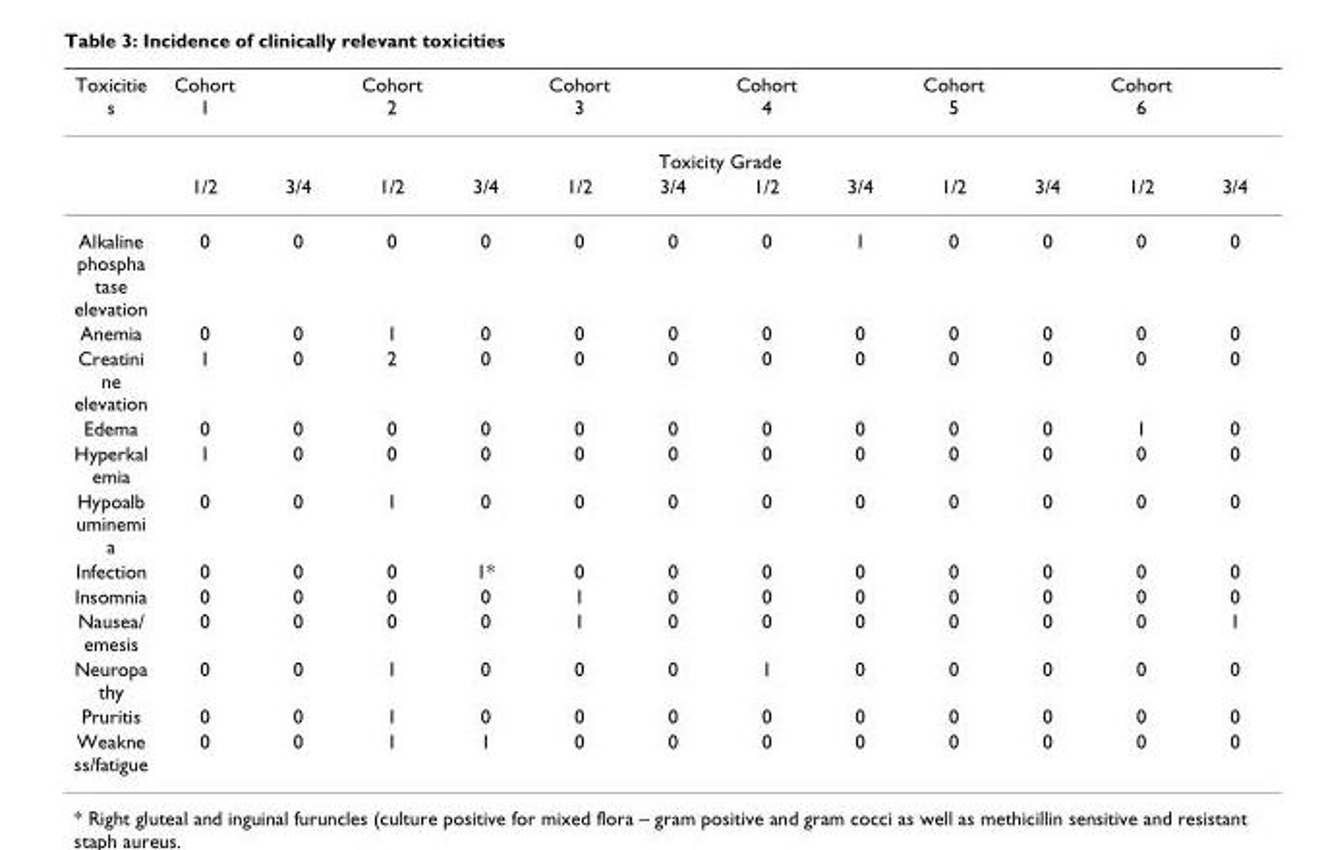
<table><thead><tr><td>Toxicitie s</td><td>Cohort 1</td><td></td><td>Cohort 2</td><td></td><td>Cohort 3</td><td></td><td>Cohort 4</td><td></td><td>Cohort 5</td><td></td><td>Cohort 6</td><td></td></tr></thead><tbody><tr><td></td><td colspan="12">Toxicity Grade</td></tr><tr><td></td><td>1/2</td><td>3/4</td><td>1/2</td><td>3/4</td><td>1/2</td><td>3/4</td><td>1/2</td><td>3/4</td><td>1/2</td><td>3/4</td><td>1/2</td><td>3/4</td></tr><tr><td>Alkaline phospha tase elevation</td><td>0</td><td>0</td><td>0</td><td>0</td><td>0</td><td>0</td><td>0</td><td>1</td><td>0</td><td>0</td><td>0</td><td>0</td></tr><tr><td>Anemia</td><td>0</td><td>0</td><td>1</td><td>0</td><td>0</td><td>0</td><td>0</td><td>0</td><td>0</td><td>0</td><td>0</td><td>0</td></tr><tr><td>Creatini ne elevation</td><td>1</td><td>0</td><td>2</td><td>0</td><td>0</td><td>0</td><td>0</td><td>0</td><td>0</td><td>0</td><td>0</td><td>0</td></tr><tr><td>Edema</td><td>0</td><td>0</td><td>0</td><td>0</td><td>0</td><td>0</td><td>0</td><td>0</td><td>0</td><td>0</td><td>1</td><td>0</td></tr><tr><td>Hyperkal emia</td><td>1</td><td>0</td><td>0</td><td>0</td><td>0</td><td>0</td><td>0</td><td>0</td><td>0</td><td>0</td><td>0</td><td>0</td></tr><tr><td>Hypoalb uminemi a</td><td>0</td><td>0</td><td>1</td><td>0</td><td>0</td><td>0</td><td>0</td><td>0</td><td>0</td><td>0</td><td>0</td><td>0</td></tr><tr><td>Infection</td><td>0</td><td>0</td><td>0</td><td>1*</td><td>0</td><td>0</td><td>0</td><td>0</td><td>0</td><td>0</td><td>0</td><td>0</td></tr><tr><td>Insomnia</td><td>0</td><td>0</td><td>0</td><td>0</td><td>1</td><td>0</td><td>0</td><td>0</td><td>0</td><td>0</td><td>0</td><td>0</td></tr><tr><td>Nausea/ emesis</td><td>0</td><td>0</td><td>0</td><td>0</td><td>1</td><td>0</td><td>0</td><td>0</td><td>0</td><td>0</td><td>0</td><td>1</td></tr><tr><td>Neuropa thy</td><td>0</td><td>0</td><td>1</td><td>0</td><td>0</td><td>0</td><td>1</td><td>0</td><td>0</td><td>0</td><td>0</td><td>0</td></tr><tr><td>Pruritis</td><td>0</td><td>0</td><td>1</td><td>0</td><td>0</td><td>0</td><td>0</td><td>0</td><td>0</td><td>0</td><td>0</td><td>0</td></tr><tr><td>Weakne ss/fatigue</td><td>0</td><td>0</td><td>1</td><td>1</td><td>0</td><td>0</td><td>0</td><td>0</td><td>0</td><td>0</td><td>0</td><td>0</td></tr></tbody></table>